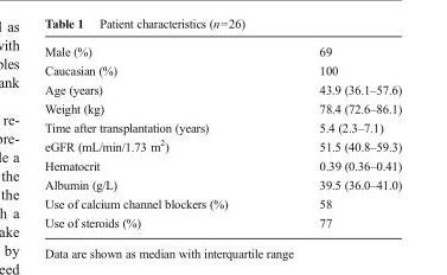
<table><tbody><tr><td>Male (%)</td><td>69</td></tr><tr><td>Caucasian (%)</td><td>100</td></tr><tr><td>Age (years)</td><td>43.9 (36.1–57.6)</td></tr><tr><td>Weight (kg)</td><td>78.4 (72.6–86.1)</td></tr><tr><td>Time after transplantation (years)</td><td>5.4 (2.3–7.1)</td></tr><tr><td>eGFR (mL/min/1.73 m<sup>2</sup>)</td><td>51.5 (40.8–59.3)</td></tr><tr><td>Hematocrit</td><td>0.39 (0.36–0.41)</td></tr><tr><td>Albumin (g/L)</td><td>39.5 (36.0–41.0)</td></tr><tr><td>Use of calcium channel blockers (%)</td><td>58</td></tr><tr><td>Use of steroids (%)</td><td>77</td></tr></tbody></table>